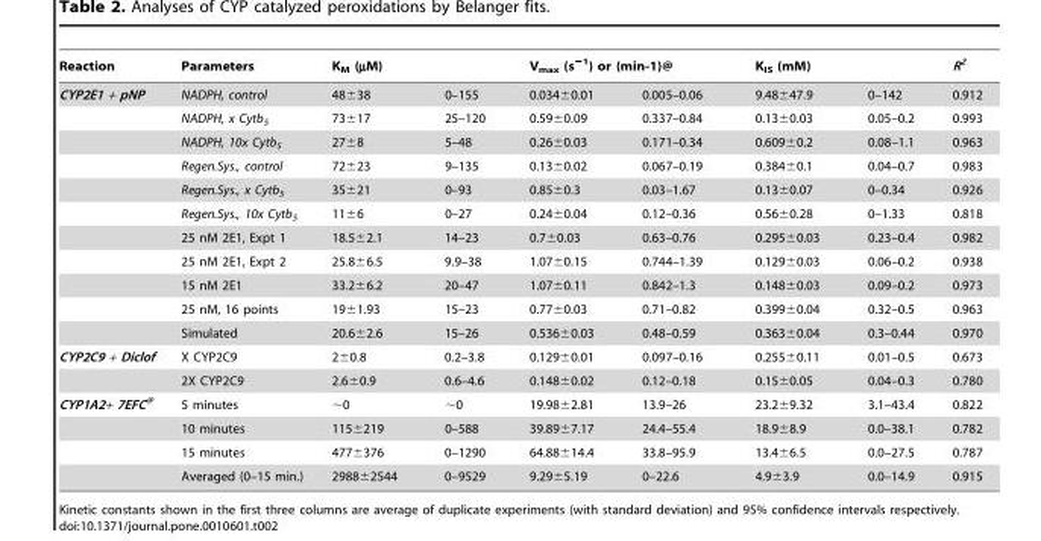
<table><thead><tr><td rowspan="2">Reaction CYP2E1 + pNP</td><td rowspan="2">Parameters NADPH, control</td><td colspan="2">K<sub>M</sub> (µM)</td><td colspan="2">V<sub>max</sub> (s<sup>−1</sup>) or (min-1)@</td><td colspan="2">K<sub>IS</sub> (mM)</td><td rowspan="2">R<sup>2</sup> 0.912</td></tr><tr><td>48±38</td><td>0–155</td><td>0.034±0.01</td><td>0.005–0.06</td><td>9.48±47.9</td><td>0–142</td></tr></thead><tbody><tr><td></td><td>NADPH, x Cytb<sub>5</sub></td><td>73±17</td><td>25–120</td><td>0.59±0.09</td><td>0.337–0.84</td><td>0.13±0.03</td><td>0.05–0.2</td><td>0.993</td></tr><tr><td></td><td>NADPH, 10x Cytb<sub>5</sub></td><td>27±8</td><td>5–48</td><td>0.26±0.03</td><td>0.171–0.34</td><td>0.609±0.2</td><td>0.08–1.1</td><td>0.963</td></tr><tr><td></td><td>Regen.Sys., control</td><td>72±23</td><td>9–135</td><td>0.13±0.02</td><td>0.067–0.19</td><td>0.384±0.1</td><td>0.04–0.7</td><td>0.983</td></tr><tr><td></td><td>Regen.Sys., x Cytb<sub>5</sub></td><td>35±21</td><td>0–93</td><td>0.85±0.3</td><td>0.03–1.67</td><td>0.13±0.07</td><td>0–0.34</td><td>0.926</td></tr><tr><td></td><td>Regen.Sys., 10x Cytb<sub>5</sub></td><td>11±6</td><td>0–27</td><td>0.24±0.04</td><td>0.12–0.36</td><td>0.56±0.28</td><td>0–1.33</td><td>0.818</td></tr><tr><td></td><td>25 nM 2E1, Expt 1</td><td>18.5±2.1</td><td>14–23</td><td>0.7±0.03</td><td>0.63–0.76</td><td>0.295±0.03</td><td>0.23–0.4</td><td>0.982</td></tr><tr><td></td><td>25 nM 2E1, Expt 2</td><td>25.8±6.5</td><td>9.9–38</td><td>1.07±0.15</td><td>0.744–1.39</td><td>0.129±0.03</td><td>0.06–0.2</td><td>0.938</td></tr><tr><td></td><td>15 nM 2E1</td><td>33.2±6.2</td><td>20–47</td><td>1.07±0.11</td><td>0.842–1.3</td><td>0.148±0.03</td><td>0.09–0.2</td><td>0.973</td></tr><tr><td></td><td>25 nM, 16 points</td><td>19±1.93</td><td>15–23</td><td>0.77±0.03</td><td>0.71–0.82</td><td>0.399±0.04</td><td>0.32–0.5</td><td>0.963</td></tr><tr><td></td><td>Simulated</td><td>20.6±2.6</td><td>15–26</td><td>0.536±0.03</td><td>0.48–0.59</td><td>0.363±0.04</td><td>0.3–0.44</td><td>0.970</td></tr><tr><td rowspan="2">CYP2C9 + Diclof</td><td>X CYP2C9</td><td>2±0.8</td><td>0.2–3.8</td><td>0.129±0.01</td><td>0.097–0.16</td><td>0.255±0.11</td><td>0.01–0.5</td><td>0.673</td></tr><tr><td>2X CYP2C9</td><td>2.6±0.9</td><td>0.6–4.6</td><td>0.148±0.02</td><td>0.12–0.18</td><td>0.15±0.05</td><td>0.04–0.3</td><td>0.780</td></tr><tr><td rowspan="4">CYP1A2+ 7EFC<sup>@</sup></td><td>5 minutes</td><td>∼0</td><td>∼0</td><td>19.98±2.81</td><td>13.9–26</td><td>23.2±9.32</td><td>3.1–43.4</td><td>0.822</td></tr><tr><td>10 minutes</td><td>115±219</td><td>0–588</td><td>39.89±7.17</td><td>24.4–55.4</td><td>18.9±8.9</td><td>0.0–38.1</td><td>0.782</td></tr><tr><td>15 minutes</td><td>477±376</td><td>0–1290</td><td>64.88±14.4</td><td>33.8–95.9</td><td>13.4±6.5</td><td>0.0–27.5</td><td>0.787</td></tr><tr><td>Averaged (0–15 min.)</td><td>2988±2544</td><td>0–9529</td><td>9.29±5.19</td><td>0–22.6</td><td>4.9±3.9</td><td>0.0–14.9</td><td>0.915</td></tr></tbody></table>